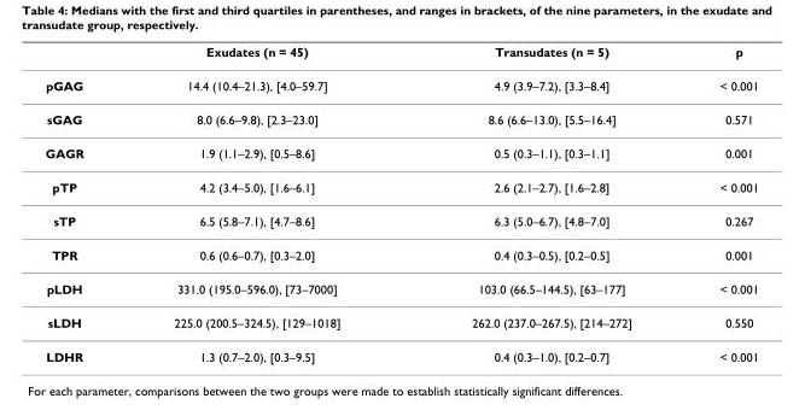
<table><thead><tr><td></td><td>Exudates (n = 45)</td><td>Transudates (n = 5)</td><td>p</td></tr></thead><tbody><tr><td>pGAG</td><td>14.4 (10.4–21.3), [4.0–59.7]</td><td>4.9 (3.9–7.2), [3.3–8.4]</td><td>&lt; 0.001</td></tr><tr><td>sGAG</td><td>8.0 (6.6–9.8), [2.3–23.0]</td><td>8.6 (6.6–13.0), [5.5–16.4]</td><td>0.571</td></tr><tr><td>GAGR</td><td>1.9 (1.1–2.9), [0.5–8.6]</td><td>0.5 (0.3–1.1), [0.3–1.1]</td><td>0.001</td></tr><tr><td>pTP</td><td>4.2 (3.4–5.0), [1.6–6.1]</td><td>2.6 (2.1–2.7), [1.6–2.8]</td><td>&lt; 0.001</td></tr><tr><td>sTP</td><td>6.5 (5.8–7.1), [4.7–8.6]</td><td>6.3 (5.0–6.7), [4.8–7.0]</td><td>0.267</td></tr><tr><td>TPR</td><td>0.6 (0.6–0.7), [0.3–2.0]</td><td>0.4 (0.3–0.5), [0.2–0.5]</td><td>0.001</td></tr><tr><td>pLDH</td><td>331.0 (195.0–596.0), [73–7000]</td><td>103.0 (66.5–144.5), [63–177]</td><td>&lt; 0.001</td></tr><tr><td>sLDH</td><td>225.0 (200.5–324.5), [129–1018]</td><td>262.0 (237.0–267.5), [214–272]</td><td>0.550</td></tr><tr><td>LDHR</td><td>1.3 (0.7–2.0), [0.3–9.5]</td><td>0.4 (0.3–1.0), [0.2–0.7]</td><td>&lt; 0.001</td></tr></tbody></table>